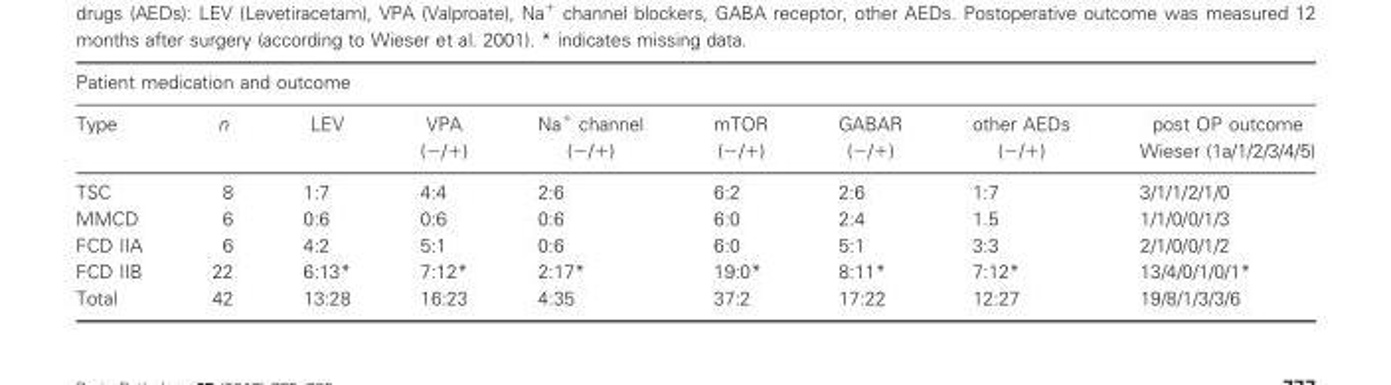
<table><thead><tr><td colspan="9">Patient medication and outcome</td></tr><tr><td>Type</td><td>n</td><td>LEV</td><td>VPA (−/+)</td><td>Na<sup>+</sup> channel (−/+)</td><td>mTOR (−/+)</td><td>GABAR (−/+)</td><td>other AEDs (−/+)</td><td>post OP outcome Wieser (1a/1/2/3/4/5)</td></tr></thead><tbody><tr><td>TSC</td><td>8</td><td>1:7</td><td>4:4</td><td>2:6</td><td>6:2</td><td>2:6</td><td>1:7</td><td>3/1/1/2/1/0</td></tr><tr><td>MMCD</td><td>6</td><td>0:6</td><td>0:6</td><td>0:6</td><td>6:0</td><td>2:4</td><td>1.5</td><td>1/1/0/0/1/3</td></tr><tr><td>FCD IIA</td><td>6</td><td>4:2</td><td>5:1</td><td>0:6</td><td>6:0</td><td>5:1</td><td>3:3</td><td>2/1/0/0/1/2</td></tr><tr><td>FCD IIB</td><td>22</td><td>6:13*</td><td>7:12*</td><td>2:17*</td><td>19:0*</td><td>8:11*</td><td>7:12*</td><td>13/4/0/1/0/1*</td></tr><tr><td>Total</td><td>42</td><td>13:28</td><td>16:23</td><td>4:35</td><td>37:2</td><td>17:22</td><td>12:27</td><td>19/8/1/3/3/6</td></tr></tbody></table>